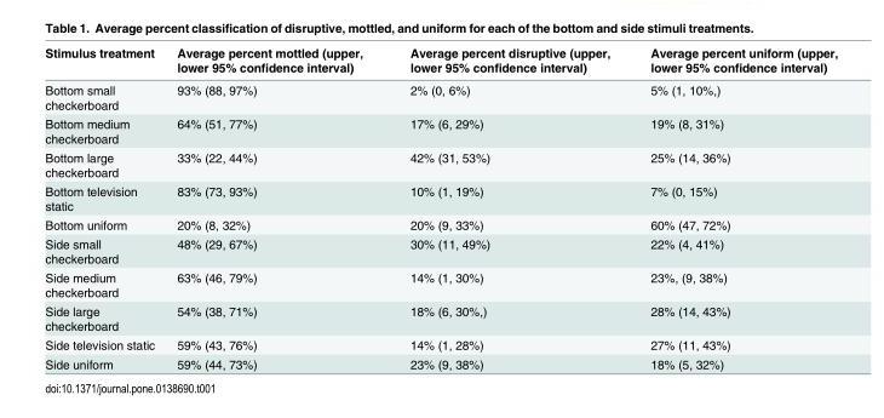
<table><thead><tr><td>Stimulus treatment</td><td>Average percent mottled (upper, lower 95% confidence interval)</td><td>Average percent disruptive (upper, lower 95% confidence interval)</td><td>Average percent uniform (upper, lower 95% confidence interval)</td></tr></thead><tbody><tr><td>Bottom small checkerboard</td><td>93% (88, 97%)</td><td>2% (0, 6%)</td><td>5% (1, 10%,)</td></tr><tr><td>Bottom medium checkerboard</td><td>64% (51, 77%)</td><td>17% (6, 29%)</td><td>19% (8, 31%)</td></tr><tr><td>Bottom large checkerboard</td><td>33% (22, 44%)</td><td>42% (31, 53%)</td><td>25% (14, 36%)</td></tr><tr><td>Bottom television static</td><td>83% (73, 93%)</td><td>10% (1, 19%)</td><td>7% (0, 15%)</td></tr><tr><td>Bottom uniform</td><td>20% (8, 32%)</td><td>20% (9, 33%)</td><td>60% (47, 72%)</td></tr><tr><td>Side small checkerboard</td><td>48% (29, 67%)</td><td>30% (11, 49%)</td><td>22% (4, 41%)</td></tr><tr><td>Side medium checkerboard</td><td>63% (46, 79%)</td><td>14% (1, 30%)</td><td>23%, (9, 38%)</td></tr><tr><td>Side large checkerboard</td><td>54% (38, 71%)</td><td>18% (6, 30%,)</td><td>28% (14, 43%)</td></tr><tr><td>Side television static</td><td>59% (43, 76%)</td><td>14% (1, 28%)</td><td>27% (11, 43%)</td></tr><tr><td>Side uniform</td><td>59% (44, 73%)</td><td>23% (9, 38%)</td><td>18% (5, 32%)</td></tr></tbody></table>